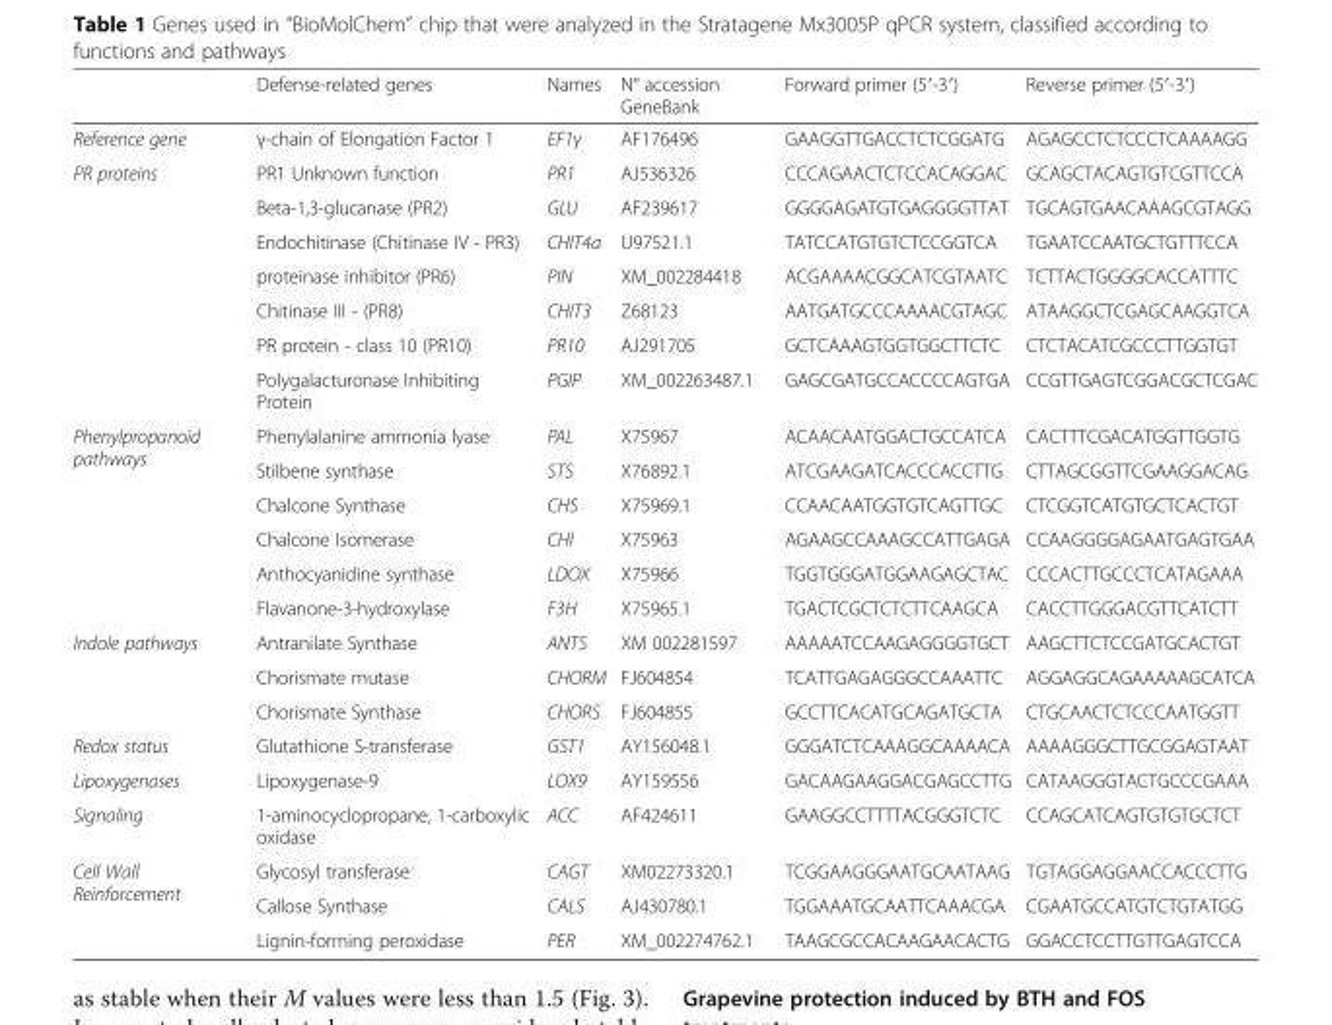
<table><thead><tr><td></td><td>Defense-related genes</td><td>Names</td><td>N° accession GeneBank</td><td>Forward primer (5′-3′)</td><td>Reverse primer (5′-3′)</td></tr></thead><tbody><tr><td>Reference gene</td><td>γ-chain of Elongation Factor 1</td><td>EF1γ</td><td>AF176496</td><td>GAAGGTTGACCTCTCGGATG</td><td>AGAGCCTCTCCCTCAAAAGG</td></tr><tr><td rowspan="7">PR proteins</td><td>PR1 Unknown function</td><td>PR1</td><td>AJ536326</td><td>CCCAGAACTCTCCACAGGAC</td><td>GCAGCTACAGTGTCGTTCCA</td></tr><tr><td>Beta-1,3-glucanase (PR2)</td><td>GLU</td><td>AF239617</td><td>GGGGAGATGTGAGGGGTTAT</td><td>TGCAGTGAACAAAGCGTAGG</td></tr><tr><td>Endochitinase (Chitinase IV - PR3)</td><td>CHIT4a</td><td>U97521.1</td><td>TATCCATGTGTCTCCGGTCA</td><td>TGAATCCAATGCTGTTTCCA</td></tr><tr><td>proteinase inhibitor (PR6)</td><td>PIN</td><td>XM_002284418</td><td>ACGAAAACGGCATCGTAATC</td><td>TCTTACTGGGGCACCATTTC</td></tr><tr><td>Chitinase III - (PR8)</td><td>CHIT3</td><td>Z68123</td><td>AATGATGCCCAAAACGTAGC</td><td>ATAAGGCTCGAGCAAGGTCA</td></tr><tr><td>PR protein - class 10 (PR10)</td><td>PR10</td><td>AJ291705</td><td>GCTCAAAGTGGTGGCTTCTC</td><td>CTCTACATCGCCCTTGGTGT</td></tr><tr><td>Polygalacturonase Inhibiting Protein</td><td>PGIP</td><td>XM_002263487.1</td><td>GAGCGATGCCACCCCAGTGA</td><td>CCGTTGAGTCGGACGCTCGAC</td></tr><tr><td rowspan="6">Phenylpropanoid pathways</td><td>Phenylalanine ammonia lyase</td><td>PAL</td><td>X75967</td><td>ACAACAATGGACTGCCATCA</td><td>CACTTTCGACATGGTTGGTG</td></tr><tr><td>Stilbene synthase</td><td>STS</td><td>X76892.1</td><td>ATCGAAGATCACCCACCTTG</td><td>CTTAGCGGTTCGAAGGACAG</td></tr><tr><td>Chalcone Synthase</td><td>CHS</td><td>X75969.1</td><td>CCAACAATGGTGTCAGTTGC</td><td>CTCGGTCATGTGCTCACTGT</td></tr><tr><td>Chalcone Isomerase</td><td>CHI</td><td>X75963</td><td>AGAAGCCAAAGCCATTGAGA</td><td>CCAAGGGGAGAATGAGTGAA</td></tr><tr><td>Anthocyanidine synthase</td><td>LDOX</td><td>X75966</td><td>TGGTGGGATGGAAGAGCTAC</td><td>CCCACTTGCCCTCATAGAAA</td></tr><tr><td>Flavanone-3-hydroxylase</td><td>F3H</td><td>X75965.1</td><td>TGACTCGCTCTCTTCAAGCA</td><td>CACCTTGGGACGTTCATCTT</td></tr><tr><td rowspan="3">Indole pathways</td><td>Antranilate Synthase</td><td>ANTS</td><td>XM 002281597</td><td>AAAAATCCAAGAGGGGTGCT</td><td>AAGCTTCTCCGATGCACTGT</td></tr><tr><td>Chorismate mutase</td><td>CHORM</td><td>FJ604854</td><td>TCATTGAGAGGGCCAAATTC</td><td>AGGAGGCAGAAAAAGCATCA</td></tr><tr><td>Chorismate Synthase</td><td>CHORS</td><td>FJ604855</td><td>GCCTTCACATGCAGATGCTA</td><td>CTGCAACTCTCCCAATGGTT</td></tr><tr><td>Redox status</td><td>Glutathione S-transferase</td><td>GST1</td><td>AY156048.1</td><td>GGGATCTCAAAGGCAAAACA</td><td>AAAAGGGCTTGCGGAGTAAT</td></tr><tr><td>Lipoxygenases</td><td>Lipoxygenase-9</td><td>LOX9</td><td>AY159556</td><td>GACAAGAAGGACGAGCCTTG</td><td>CATAAGGGTACTGCCCGAAA</td></tr><tr><td>Signaling</td><td>1-aminocyclopropane, 1-carboxylic oxidase</td><td>ACC</td><td>AF424611</td><td>GAAGGCCTTTTACGGGTCTC</td><td>CCAGCATCAGTGTGTGCTCT</td></tr><tr><td rowspan="3">Cell Wall Reinforcement</td><td>Glycosyl transferase</td><td>CAGT</td><td>XM02273320.1</td><td>TCGGAAGGGAATGCAATAAG</td><td>TGTAGGAGGAACCACCCTTG</td></tr><tr><td>Callose Synthase</td><td>CALS</td><td>AJ430780.1</td><td>TGGAAATGCAATTCAAACGA</td><td>CGAATGCCATGTCTGTATGG</td></tr><tr><td>Lignin-forming peroxidase</td><td>PER</td><td>XM_002274762.1</td><td>TAAGCGCCACAAGAACACTG</td><td>GGACCTCCTTGTTGAGTCCA</td></tr></tbody></table>